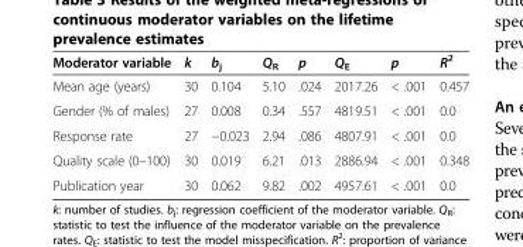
<table><thead><tr><td>Moderator variable</td><td>k</td><td>b<sub>j</sub></td><td>Q<sub>R</sub></td><td>p</td><td>Q<sub>E</sub></td><td>p</td><td>R<sup>2</sup></td></tr></thead><tbody><tr><td>Mean age (years)</td><td>30</td><td>0.104</td><td>5.10</td><td>.024</td><td>2017.26</td><td>&lt; .001</td><td>0.457</td></tr><tr><td>Gender (% of males)</td><td>27</td><td>0.008</td><td>0.34</td><td>.557</td><td>4819.51</td><td>&lt; .001</td><td>0.0</td></tr><tr><td>Response rate</td><td>27</td><td>−0.023</td><td>2.94</td><td>.086</td><td>4807.91</td><td>&lt; .001</td><td>0.0</td></tr><tr><td>Quality scale (0–100)</td><td>30</td><td>0.019</td><td>6.21</td><td>.013</td><td>2886.94</td><td>&lt; .001</td><td>0.348</td></tr><tr><td>Publication year</td><td>30</td><td>0.062</td><td>9.82</td><td>.002</td><td>4957.61</td><td>&lt; .001</td><td>0.0</td></tr></tbody></table>